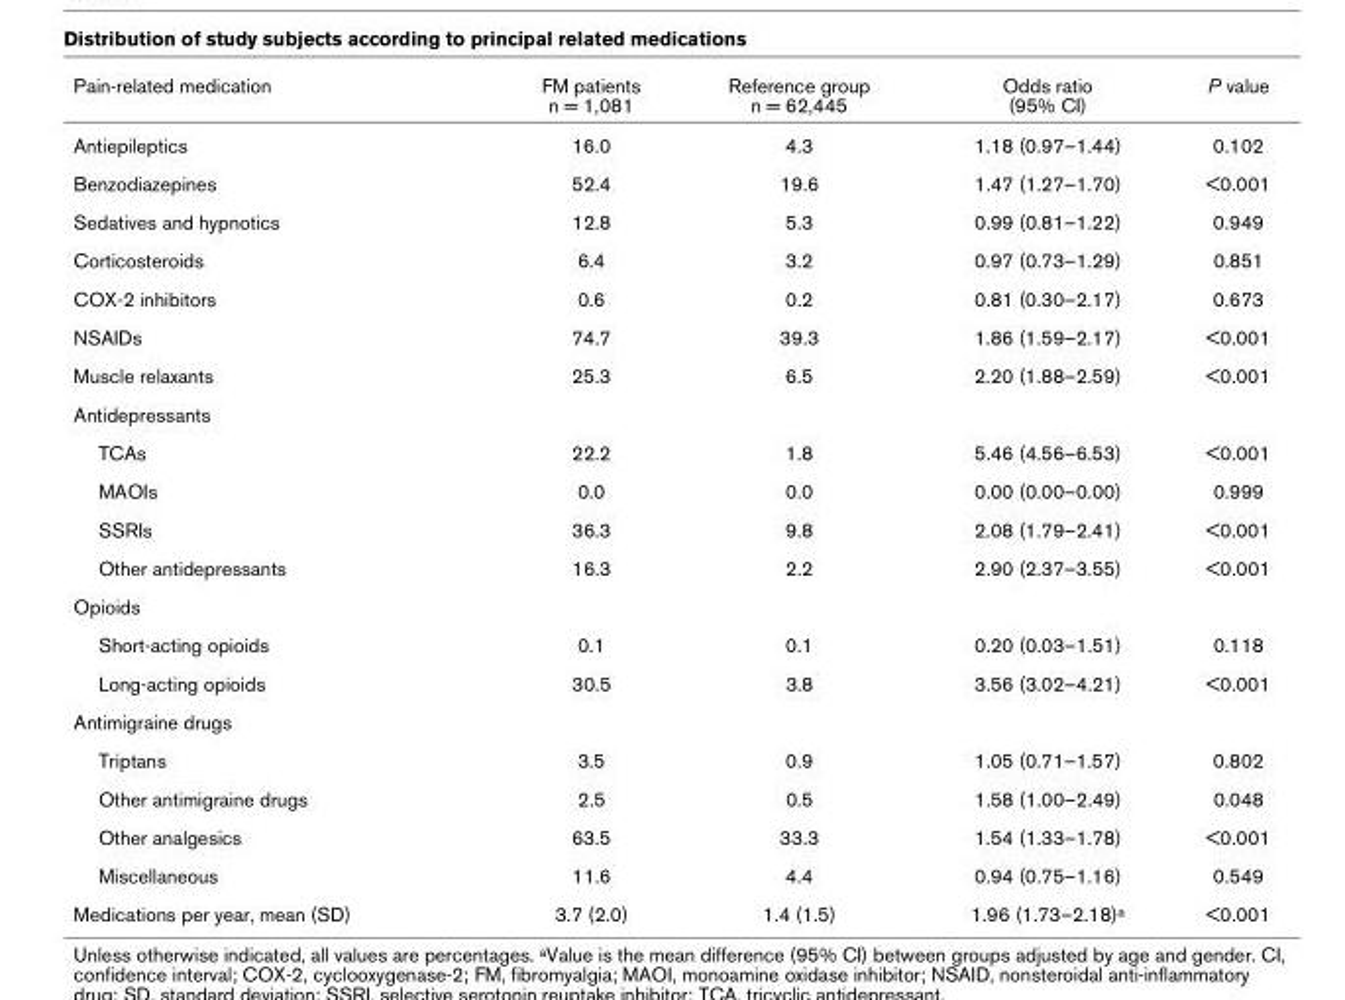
<table><thead><tr><td>Pain-related medication</td><td>FM patients n = 1,081</td><td>Reference group n = 62,445</td><td>Odds ratio (95% CI)</td><td>P value</td></tr></thead><tbody><tr><td>Antiepileptics</td><td>16.0</td><td>4.3</td><td>1.18 (0.97–1.44)</td><td>0.102</td></tr><tr><td>Benzodiazepines</td><td>52.4</td><td>19.6</td><td>1.47 (1.27–1.70)</td><td>&lt;0.001</td></tr><tr><td>Sedatives and hypnotics</td><td>12.8</td><td>5.3</td><td>0.99 (0.81–1.22)</td><td>0.949</td></tr><tr><td>Corticosteroids</td><td>6.4</td><td>3.2</td><td>0.97 (0.73–1.29)</td><td>0.851</td></tr><tr><td>COX-2 inhibitors</td><td>0.6</td><td>0.2</td><td>0.81 (0.30–2.17)</td><td>0.673</td></tr><tr><td>NSAIDs</td><td>74.7</td><td>39.3</td><td>1.86 (1.59–2.17)</td><td>&lt;0.001</td></tr><tr><td>Muscle relaxants</td><td>25.3</td><td>6.5</td><td>2.20 (1.88–2.59)</td><td>&lt;0.001</td></tr><tr><td colspan="5">Antidepressants</td></tr><tr><td>TCAs</td><td>22.2</td><td>1.8</td><td>5.46 (4.56–6.53)</td><td>&lt;0.001</td></tr><tr><td>MAOIs</td><td>0.0</td><td>0.0</td><td>0.00 (0.00–0.00)</td><td>0.999</td></tr><tr><td>SSRIs</td><td>36.3</td><td>9.8</td><td>2.08 (1.79–2.41)</td><td>&lt;0.001</td></tr><tr><td>Other antidepressants</td><td>16.3</td><td>2.2</td><td>2.90 (2.37–3.55)</td><td>&lt;0.001</td></tr><tr><td colspan="5">Opioids</td></tr><tr><td>Short-acting opioids</td><td>0.1</td><td>0.1</td><td>0.20 (0.03–1.51)</td><td>0.118</td></tr><tr><td>Long-acting opioids</td><td>30.5</td><td>3.8</td><td>3.56 (3.02–4.21)</td><td>&lt;0.001</td></tr><tr><td colspan="5">Antimigraine drugs</td></tr><tr><td>Triptans</td><td>3.5</td><td>0.9</td><td>1.05 (0.71–1.57)</td><td>0.802</td></tr><tr><td>Other antimigraine drugs</td><td>2.5</td><td>0.5</td><td>1.58 (1.00–2.49)</td><td>0.048</td></tr><tr><td>Other analgesics</td><td>63.5</td><td>33.3</td><td>1.54 (1.33–1.78)</td><td>&lt;0.001</td></tr><tr><td>Miscellaneous</td><td>11.6</td><td>4.4</td><td>0.94 (0.75–1.16)</td><td>0.549</td></tr><tr><td>Medications per year, mean (SD)</td><td>3.7 (2.0)</td><td>1.4 (1.5)</td><td>1.96 (1.73–2.18)<sup>a</sup></td><td>&lt;0.001</td></tr></tbody></table>